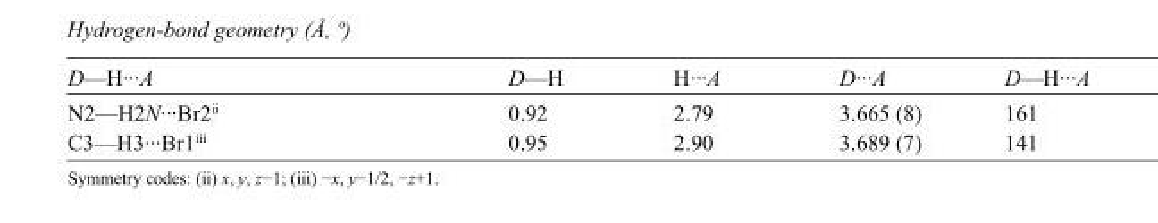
<table><tbody><tr><td>D—H···A</td><td>D—H</td><td>H···A</td><td>D···A</td><td>D—H···A</td></tr><tr><td>N2—H2N···Br2<sup>ii</sup></td><td>0.92</td><td>2.79</td><td>3.665 (8)</td><td>161</td></tr><tr><td>C3—H3···Br1<sup>iii</sup></td><td>0.95</td><td>2.90</td><td>3.689 (7)</td><td>141</td></tr></tbody></table>